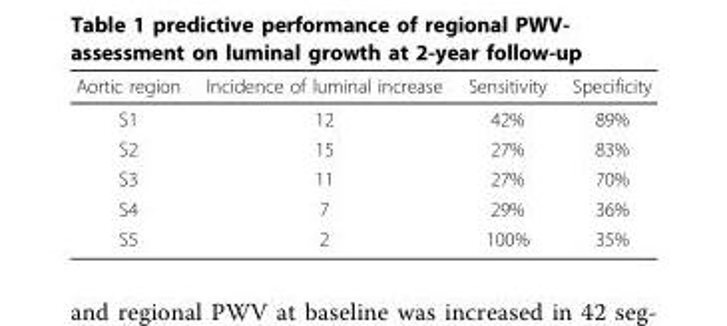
<table><thead><tr><td>Aortic region</td><td>Incidence of luminal increase</td><td>Sensitivity</td><td>Specificity</td></tr></thead><tbody><tr><td>S1</td><td>12</td><td>42%</td><td>89%</td></tr><tr><td>S2</td><td>15</td><td>27%</td><td>83%</td></tr><tr><td>S3</td><td>11</td><td>27%</td><td>70%</td></tr><tr><td>S4</td><td>7</td><td>29%</td><td>36%</td></tr><tr><td>S5</td><td>2</td><td>100%</td><td>35%</td></tr></tbody></table>